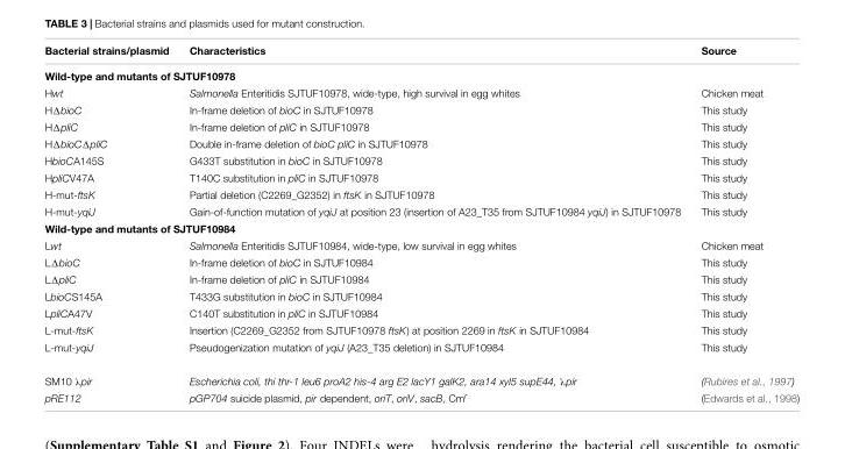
<table><thead><tr><td>Bacterial strains/plasmid</td><td>Characteristics</td><td>Source</td></tr></thead><tbody><tr><td colspan="3">Wild-type and mutants of SJTUF10978</td></tr><tr><td>Hwt</td><td>Salmonella Enteritidis SJTUF10978, wide-type, high survival in egg whites</td><td>Chicken meat</td></tr><tr><td>HΔbioC</td><td>In-frame deletion of bioC in SJTUF10978</td><td>This study</td></tr><tr><td>HΔpliC</td><td>In-frame deletion of pliC in SJTUF10978</td><td>This study</td></tr><tr><td>HΔbioCΔpliC</td><td>Double in-frame deletion of bioC pliC in SJTUF10978</td><td>This study</td></tr><tr><td>HbioCA145S</td><td>G433T substitution in bioC in SJTUF10978</td><td>This study</td></tr><tr><td>HpliCV47A</td><td>T140C substitution in pliC in SJTUF10978</td><td>This study</td></tr><tr><td>H-mut-ftsK</td><td>Partial deletion (C2269_G2352) in ftsK in SJTUF10978</td><td>This study</td></tr><tr><td>H-mut-yqiJ</td><td>Gain-of-function mutation of yqiJ at position 23 (insertion of A23_T35 from SJTUF10984 yqiJ) in SJTUF10978</td><td>This study</td></tr><tr><td colspan="3">Wild-type and mutants of SJTUF10984</td></tr><tr><td>Lwt</td><td>Salmonella Enteritidis SJTUF10984, wide-type, low survival in egg whites</td><td>Chicken meat</td></tr><tr><td>LΔbioC</td><td>In-frame deletion of bioC in SJTUF10984</td><td>This study</td></tr><tr><td>LΔpliC</td><td>In-frame deletion of pliC in SJTUF10984</td><td>This study</td></tr><tr><td>LbioCS145A</td><td>T433G substitution in bioC in SJTUF10984</td><td>This study</td></tr><tr><td>LpliCA47V</td><td>C140T substitution in pliC in SJTUF10984</td><td>This study</td></tr><tr><td>L-mut-ftsK</td><td>Insertion (C2269_G2352 from SJTUF10978 ftsK) at position 2269 in ftsK in SJTUF10984</td><td>This study</td></tr><tr><td>L-mut-yqiJ</td><td>Pseudogenization mutation of yqiJ (A23_T35 deletion) in SJTUF10984</td><td>This study</td></tr><tr><td>SM10 λpir</td><td>Escherichia coli, thi thr-1 leu6 proA2 his-4 arg E2 lacY1 galK2, ara14 xyl5 supE44, λpir</td><td>(Rubires et al., 1997)</td></tr><tr><td>pRE112</td><td>pGP704 suicide plasmid, pir dependent, oriT, oriV, sacB, Cm<sup>r</sup></td><td>(Edwards et al., 1998)</td></tr></tbody></table>